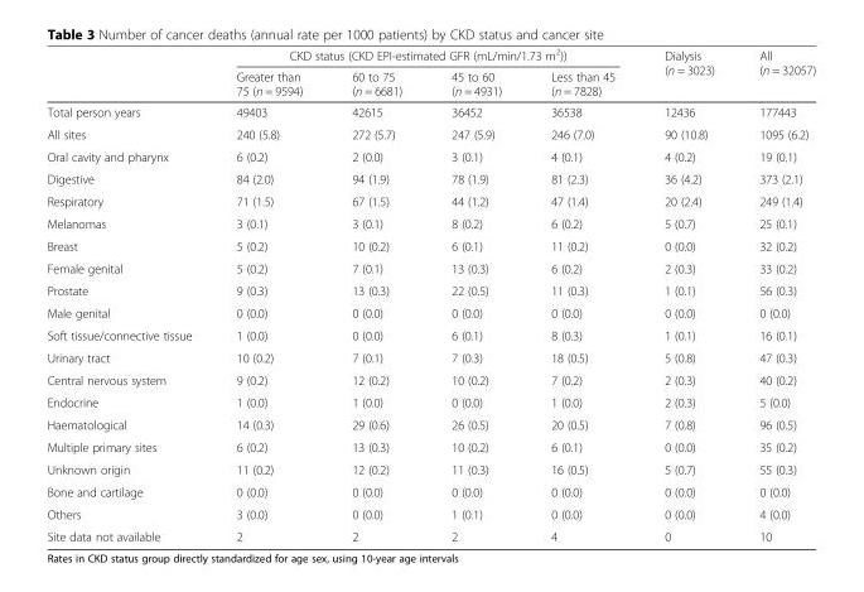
<table><thead><tr><td rowspan="2"></td><td colspan="4">CKD status (CKD EPI-estimated GFR (mL/min/1.73 m<sup>2</sup>))</td><td rowspan="2">Dialysis (n = 3023)</td><td rowspan="2">All (n = 32057)</td></tr><tr><td>Greater than 75 (n = 9594)</td><td>60 to 75 (n = 6681)</td><td>45 to 60 (n = 4931)</td><td>Less than 45 (n = 7828)</td></tr></thead><tbody><tr><td>Total person years</td><td>49403</td><td>42615</td><td>36452</td><td>36538</td><td>12436</td><td>177443</td></tr><tr><td>All sites</td><td>240 (5.8)</td><td>272 (5.7)</td><td>247 (5.9)</td><td>246 (7.0)</td><td>90 (10.8)</td><td>1095 (6.2)</td></tr><tr><td>Oral cavity and pharynx</td><td>6 (0.2)</td><td>2 (0.0)</td><td>3 (0.1)</td><td>4 (0.1)</td><td>4 (0.2)</td><td>19 (0.1)</td></tr><tr><td>Digestive</td><td>84 (2.0)</td><td>94 (1.9)</td><td>78 (1.9)</td><td>81 (2.3)</td><td>36 (4.2)</td><td>373 (2.1)</td></tr><tr><td>Respiratory</td><td>71 (1.5)</td><td>67 (1.5)</td><td>44 (1.2)</td><td>47 (1.4)</td><td>20 (2.4)</td><td>249 (1.4)</td></tr><tr><td>Melanomas</td><td>3 (0.1)</td><td>3 (0.1)</td><td>8 (0.2)</td><td>6 (0.2)</td><td>5 (0.7)</td><td>25 (0.1)</td></tr><tr><td>Breast</td><td>5 (0.2)</td><td>10 (0.2)</td><td>6 (0.1)</td><td>11 (0.2)</td><td>0 (0.0)</td><td>32 (0.2)</td></tr><tr><td>Female genital</td><td>5 (0.2)</td><td>7 (0.1)</td><td>13 (0.3)</td><td>6 (0.2)</td><td>2 (0.3)</td><td>33 (0.2)</td></tr><tr><td>Prostate</td><td>9 (0.3)</td><td>13 (0.3)</td><td>22 (0.5)</td><td>11 (0.3)</td><td>1 (0.1)</td><td>56 (0.3)</td></tr><tr><td>Male genital</td><td>0 (0.0)</td><td>0 (0.0)</td><td>0 (0.0)</td><td>0 (0.0)</td><td>0 (0.0)</td><td>0 (0.0)</td></tr><tr><td>Soft tissue/connective tissue</td><td>1 (0.0)</td><td>0 (0.0)</td><td>6 (0.1)</td><td>8 (0.3)</td><td>1 (0.1)</td><td>16 (0.1)</td></tr><tr><td>Urinary tract</td><td>10 (0.2)</td><td>7 (0.1)</td><td>7 (0.3)</td><td>18 (0.5)</td><td>5 (0.8)</td><td>47 (0.3)</td></tr><tr><td>Central nervous system</td><td>9 (0.2)</td><td>12 (0.2)</td><td>10 (0.2)</td><td>7 (0.2)</td><td>2 (0.3)</td><td>40 (0.2)</td></tr><tr><td>Endocrine</td><td>1 (0.0)</td><td>1 (0.0)</td><td>0 (0.0)</td><td>1 (0.0)</td><td>2 (0.3)</td><td>5 (0.0)</td></tr><tr><td>Haematological</td><td>14 (0.3)</td><td>29 (0.6)</td><td>26 (0.5)</td><td>20 (0.5)</td><td>7 (0.8)</td><td>96 (0.5)</td></tr><tr><td>Multiple primary sites</td><td>6 (0.2)</td><td>13 (0.3)</td><td>10 (0.2)</td><td>6 (0.1)</td><td>0 (0.0)</td><td>35 (0.2)</td></tr><tr><td>Unknown origin</td><td>11 (0.2)</td><td>12 (0.2)</td><td>11 (0.3)</td><td>16 (0.5)</td><td>5 (0.7)</td><td>55 (0.3)</td></tr><tr><td>Bone and cartilage</td><td>0 (0.0)</td><td>0 (0.0)</td><td>0 (0.0)</td><td>0 (0.0)</td><td>0 (0.0)</td><td>0 (0.0)</td></tr><tr><td>Others</td><td>3 (0.0)</td><td>0 (0.0)</td><td>1 (0.1)</td><td>0 (0.0)</td><td>0 (0.0)</td><td>4 (0.0)</td></tr><tr><td>Site data not available</td><td>2</td><td>2</td><td>2</td><td>4</td><td>0</td><td>10</td></tr></tbody></table>